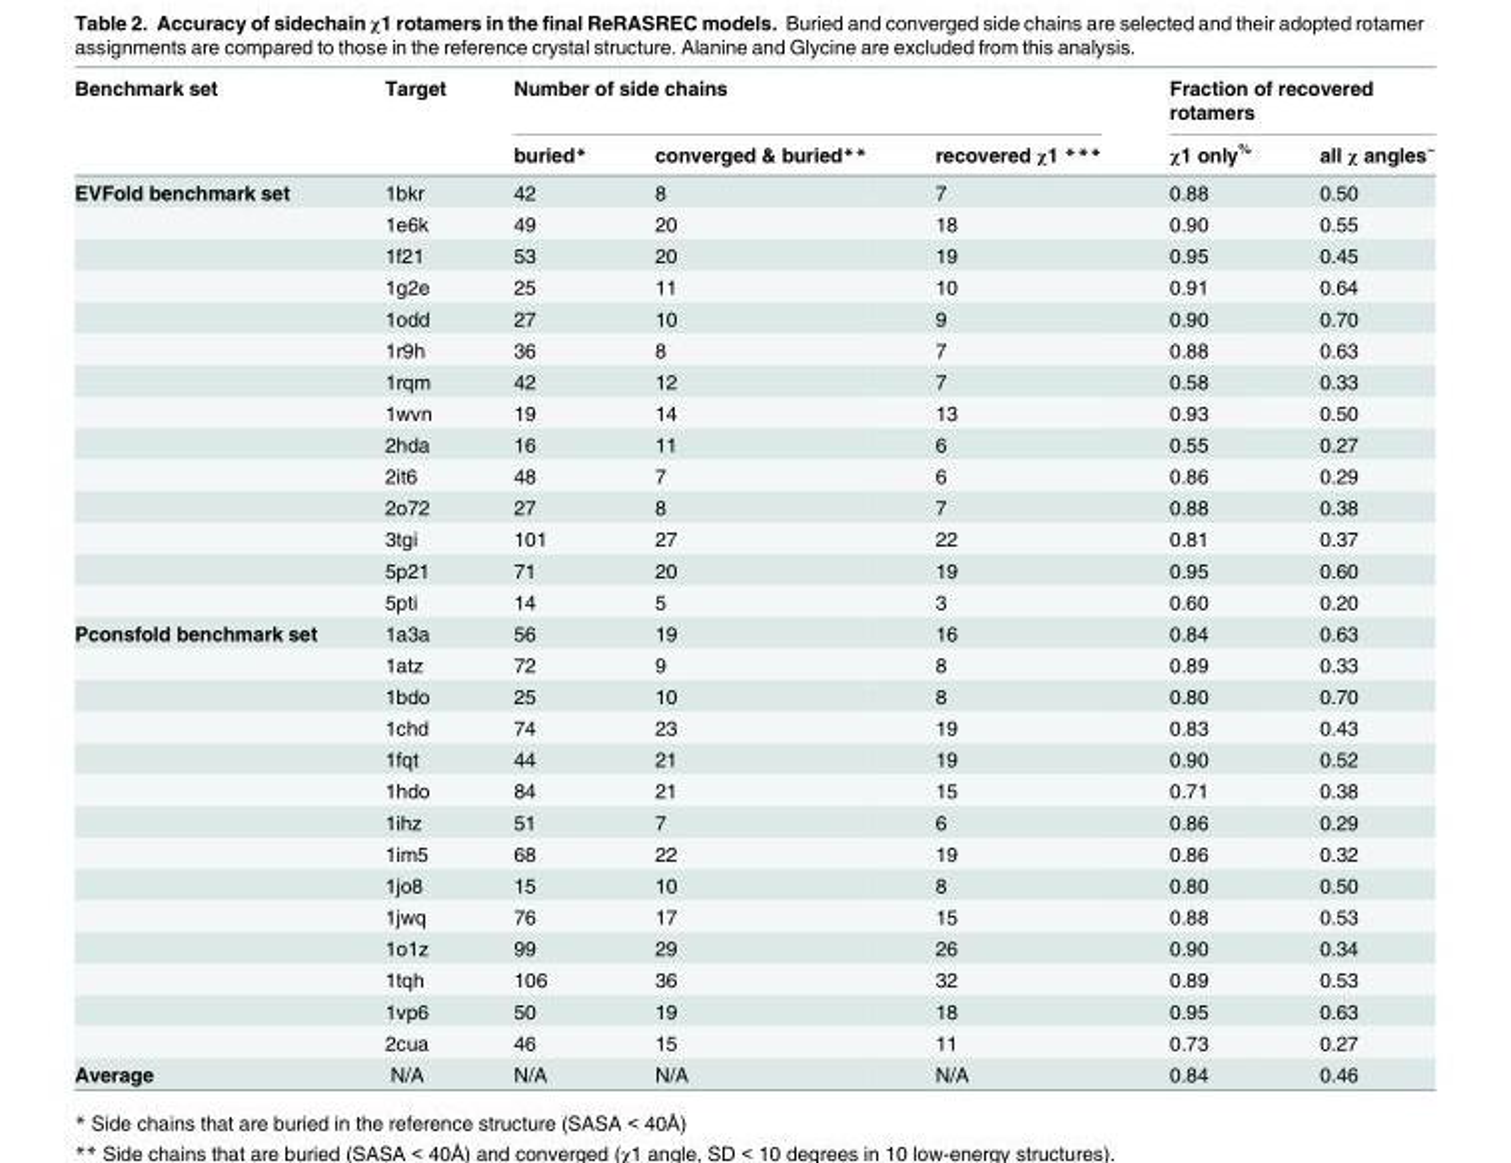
<table><thead><tr><td rowspan="2">Benchmark set</td><td rowspan="2">Target</td><td colspan="3">Number of side chains</td><td colspan="2">Fraction of recovered rotamers</td></tr><tr><td>buried*</td><td>converged &amp; buried**</td><td>recovered χ1 ***</td><td>χ1 only<sup>%</sup></td><td>all χ angles<sup>~</sup></td></tr></thead><tbody><tr><td rowspan="14">EVFold benchmark set</td><td>1bkr</td><td>42</td><td>8</td><td>7</td><td>0.88</td><td>0.50</td></tr><tr><td>1e6k</td><td>49</td><td>20</td><td>18</td><td>0.90</td><td>0.55</td></tr><tr><td>1f21</td><td>53</td><td>20</td><td>19</td><td>0.95</td><td>0.45</td></tr><tr><td>1g2e</td><td>25</td><td>11</td><td>10</td><td>0.91</td><td>0.64</td></tr><tr><td>1odd</td><td>27</td><td>10</td><td>9</td><td>0.90</td><td>0.70</td></tr><tr><td>1r9h</td><td>36</td><td>8</td><td>7</td><td>0.88</td><td>0.63</td></tr><tr><td>1rqm</td><td>42</td><td>12</td><td>7</td><td>0.58</td><td>0.33</td></tr><tr><td>1wvn</td><td>19</td><td>14</td><td>13</td><td>0.93</td><td>0.50</td></tr><tr><td>2hda</td><td>16</td><td>11</td><td>6</td><td>0.55</td><td>0.27</td></tr><tr><td>2it6</td><td>48</td><td>7</td><td>6</td><td>0.86</td><td>0.29</td></tr><tr><td>2o72</td><td>27</td><td>8</td><td>7</td><td>0.88</td><td>0.38</td></tr><tr><td>3tgi</td><td>101</td><td>27</td><td>22</td><td>0.81</td><td>0.37</td></tr><tr><td>5p21</td><td>71</td><td>20</td><td>19</td><td>0.95</td><td>0.60</td></tr><tr><td>5pti</td><td>14</td><td>5</td><td>3</td><td>0.60</td><td>0.20</td></tr><tr><td rowspan="14">Pconsfold benchmark set</td><td>1a3a</td><td>56</td><td>19</td><td>16</td><td>0.84</td><td>0.63</td></tr><tr><td>1atz</td><td>72</td><td>9</td><td>8</td><td>0.89</td><td>0.33</td></tr><tr><td>1bdo</td><td>25</td><td>10</td><td>8</td><td>0.80</td><td>0.70</td></tr><tr><td>1chd</td><td>74</td><td>23</td><td>19</td><td>0.83</td><td>0.43</td></tr><tr><td>1fqt</td><td>44</td><td>21</td><td>19</td><td>0.90</td><td>0.52</td></tr><tr><td>1hdo</td><td>84</td><td>21</td><td>15</td><td>0.71</td><td>0.38</td></tr><tr><td>1ihz</td><td>51</td><td>7</td><td>6</td><td>0.86</td><td>0.29</td></tr><tr><td>1im5</td><td>68</td><td>22</td><td>19</td><td>0.86</td><td>0.32</td></tr><tr><td>1jo8</td><td>15</td><td>10</td><td>8</td><td>0.80</td><td>0.50</td></tr><tr><td>1jwq</td><td>76</td><td>17</td><td>15</td><td>0.88</td><td>0.53</td></tr><tr><td>1o1z</td><td>99</td><td>29</td><td>26</td><td>0.90</td><td>0.34</td></tr><tr><td>1tqh</td><td>106</td><td>36</td><td>32</td><td>0.89</td><td>0.53</td></tr><tr><td>1vp6</td><td>50</td><td>19</td><td>18</td><td>0.95</td><td>0.63</td></tr><tr><td>2cua</td><td>46</td><td>15</td><td>11</td><td>0.73</td><td>0.27</td></tr><tr><td>Average</td><td>N/A</td><td>N/A</td><td>N/A</td><td>N/A</td><td>0.84</td><td>0.46</td></tr></tbody></table>